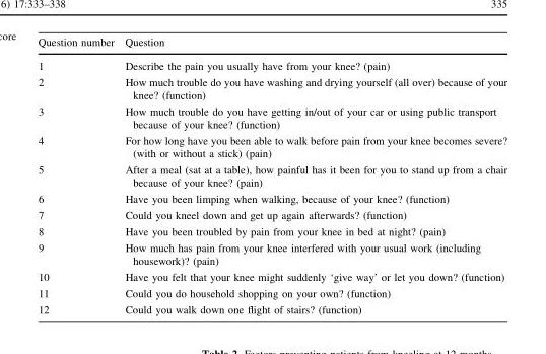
<table><thead><tr><td>Question number</td><td>Question</td></tr></thead><tbody><tr><td>1</td><td>Describe the pain you usually have from your knee? (pain)</td></tr><tr><td>2</td><td>How much trouble do you have washing and drying yourself (all over) because of your knee? (function)</td></tr><tr><td>3</td><td>How much trouble do you have getting in/out of your car or using public transport because of your knee? (function)</td></tr><tr><td>4</td><td>For how long have you been able to walk before pain from your knee becomes severe? (with or without a stick) (pain)</td></tr><tr><td>5</td><td>After a meal (sat at a table), how painful has it been for you to stand up from a chair because of your knee? (pain)</td></tr><tr><td>6</td><td>Have you been limping when walking, because of your knee? (function)</td></tr><tr><td>7</td><td>Could you kneel down and get up again afterwards? (function)</td></tr><tr><td>8</td><td>Have you been troubled by pain from your knee in bed at night? (pain)</td></tr><tr><td>9</td><td>How much has pain from your knee interfered with your usual work (including housework)? (pain)</td></tr><tr><td>10</td><td>Have you felt that your knee might suddenly ‘give way’ or let you down? (function)</td></tr><tr><td>11</td><td>Could you do household shopping on your own? (function)</td></tr><tr><td>12</td><td>Could you walk down one flight of stairs? (function)</td></tr></tbody></table>